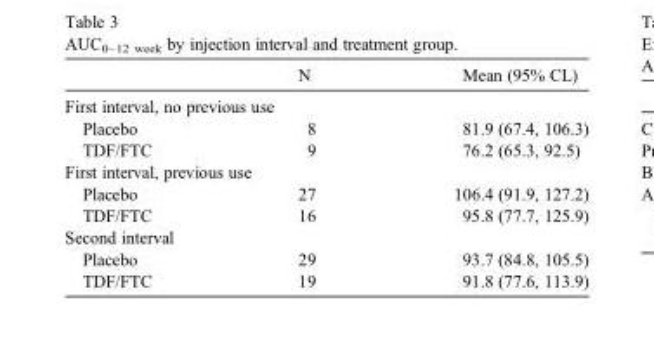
<table><thead><tr><td></td><td>N</td><td>Mean (95% CL)</td></tr></thead><tbody><tr><td colspan="3">First interval, no previous use</td></tr><tr><td>Placebo</td><td>8</td><td>81.9 (67.4, 106.3)</td></tr><tr><td>TDF/FTC</td><td>9</td><td>76.2 (65.3, 92.5)</td></tr><tr><td colspan="3">First interval, previous use</td></tr><tr><td>Placebo</td><td>27</td><td>106.4 (91.9, 127.2)</td></tr><tr><td>TDF/FTC</td><td>16</td><td>95.8 (77.7, 125.9)</td></tr><tr><td colspan="3">Second interval</td></tr><tr><td>Placebo</td><td>29</td><td>93.7 (84.8, 105.5)</td></tr><tr><td>TDF/FTC</td><td>19</td><td>91.8 (77.6, 113.9)</td></tr></tbody></table>